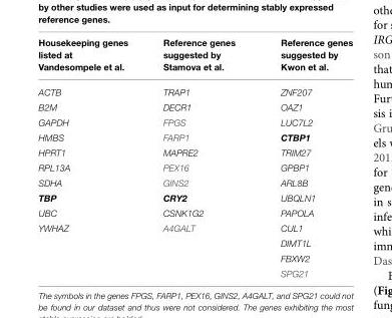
<table><thead><tr><td>Housekeeping genes listed at Vandesompele et al.</td><td>Reference genes suggested by Stamova et al.</td><td>Reference genes suggested by Kwon et al.</td></tr></thead><tbody><tr><td>ACTB</td><td>TRAP1</td><td>ZNF207</td></tr><tr><td>B2M</td><td>DECR1</td><td>OAZ1</td></tr><tr><td>GAPDH</td><td>FPGS</td><td>LUC7L2</td></tr><tr><td>HMBS</td><td>FARP1</td><td>CTBP1</td></tr><tr><td>HPRT1</td><td>MAPRE2</td><td>TRIM27</td></tr><tr><td>RPL13A</td><td>PEX16</td><td>GPBP1</td></tr><tr><td>SDHA</td><td>GINS2</td><td>ARL8B</td></tr><tr><td>TBP</td><td>CRY2</td><td>UBQLN1</td></tr><tr><td>UBC</td><td>CSNK1G2</td><td>PAPOLA</td></tr><tr><td rowspan="4">YWHAZ</td><td>A4GALT</td><td>CUL1</td></tr><tr><td></td><td>DIMT1L</td></tr><tr><td></td><td>FBXW2</td></tr><tr><td></td><td>SPG21</td></tr></tbody></table>